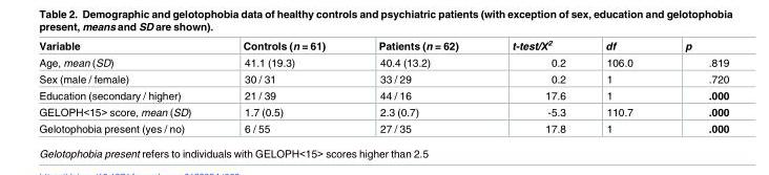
<table><thead><tr><td>Variable</td><td>Controls (n = 61)</td><td>Patients (n = 62)</td><td>t-test/Χ<sup>2</sup></td><td>df</td><td>p</td></tr></thead><tbody><tr><td>Age, mean (SD)</td><td>41.1 (19.3)</td><td>40.4 (13.2)</td><td>0.2</td><td>106.0</td><td>.819</td></tr><tr><td>Sex (male / female)</td><td>30 / 31</td><td>33 / 29</td><td>0.2</td><td>1</td><td>.720</td></tr><tr><td>Education (secondary / higher)</td><td>21 / 39</td><td>44 / 16</td><td>17.6</td><td>1</td><td>.000</td></tr><tr><td>GELOPH&lt;15&gt; score, mean (SD)</td><td>1.7 (0.5)</td><td>2.3 (0.7)</td><td>-5.3</td><td>110.7</td><td>.000</td></tr><tr><td>Gelotophobia present (yes / no)</td><td>6 / 55</td><td>27 / 35</td><td>17.8</td><td>1</td><td>.000</td></tr></tbody></table>